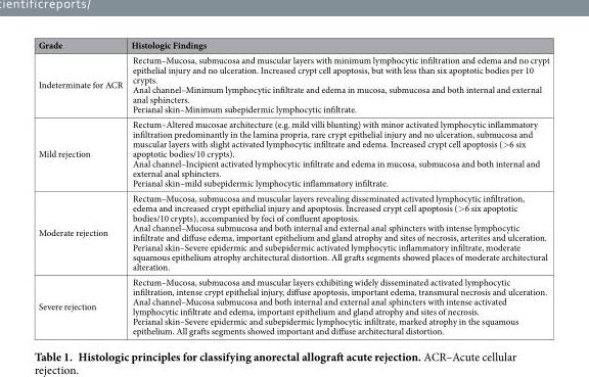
<table><thead><tr><td>Grade</td><td>Histologic Findings</td></tr></thead><tbody><tr><td>Indeterminate for ACR</td><td>Rectum–Mucosa, submucosa and muscular layers with minimum lymphocytic infiltration and edema and no crypt epithelial injury and no ulceration. Increased crypt cell apoptosis, but with less than six apoptotic bodies per 10 crypts. Anal channel–Minimum lymphocytic infiltrate and edema in mucosa, submucosa and both internal and external anal sphincters. Perianal skin–Minimum subepidermic lymphocytic infiltrate.</td></tr><tr><td>Mild rejection</td><td>Rectum–Altered mucosae architecture (e.g. mild villi blunting) with minor activated lymphocytic inflammatory infiltration predominantly in the lamina propria, rare crypt epithelial injury and no ulceration, submucosa and muscular layers with slight activated lymphocytic infiltrate and edema. Increased crypt cell apoptosis (&gt; 6 six apoptotic bodies/10 crypts). Anal channel–Incipient activated lymphocytic infiltrate and edema in mucosa, submucosa and both internal and external anal sphincters. Perianal skin–mild subepidermic lymphocytic inflammatory infiltrate.</td></tr><tr><td>Moderate rejection</td><td>Rectum–Mucosa, submucosa and muscular layers revealing disseminated activated lymphocytic infiltration, edema and increased crypt epithelial injury and apoptosis. Increased crypt cell apoptosis (&gt; 6 six apoptotic bodies/10 crypts), accompanied by foci of confluent apoptosis. Anal channel–Mucosa submucosa and both internal and external anal sphincters with intense lymphocytic infiltrate and diffuse edema, important epithelium and gland atrophy and sites of necrosis, arterites and ulceration. Perianal skin–Severe epidermic and subepidermic activated lymphocytic inflammatory infiltrate, moderate squamous epithelium atrophy architectural distortion. All grafts segments showed places of moderate architectural alteration.</td></tr><tr><td>Severe rejection</td><td>Rectum–Mucosa, submucosa and muscular layers exhibiting widely disseminated activated lymphocytic infiltration, intense crypt epithelial injury, diffuse apoptosis, important edema, transmural necrosis and ulceration. Anal channel–Mucosa submucosa and both internal and external anal sphincters with intense activated lymphocytic infiltrate and edema, important epithelium and gland atrophy and sites of necrosis. Perianal skin–Severe epidermic and subepidermic lymphocytic infiltrate, marked atrophy in the squamous epithelium. All grafts segments showed important and diffuse architectural distortion.</td></tr></tbody></table>